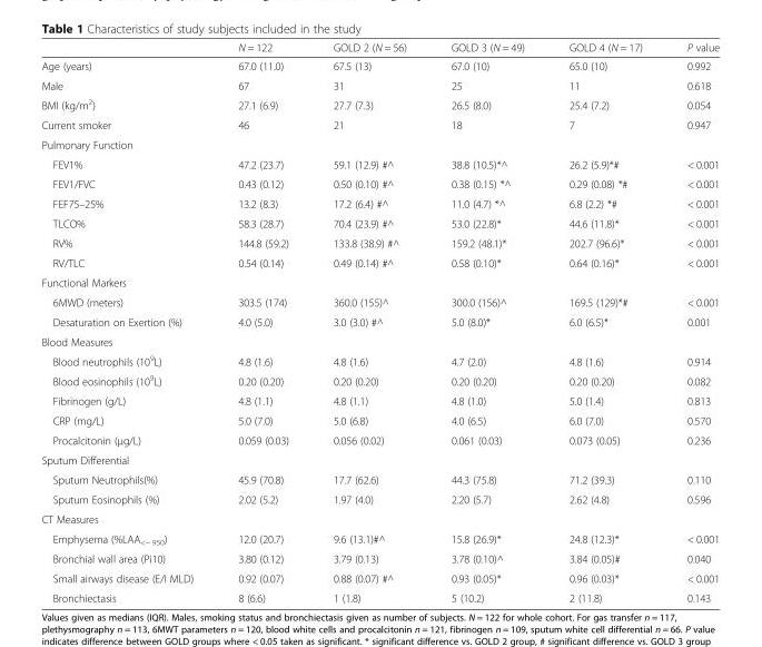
<table><thead><tr><td></td><td>N = 122</td><td>GOLD 2 (N = 56)</td><td>GOLD 3 (N = 49)</td><td>GOLD 4 (N = 17)</td><td>P value</td></tr></thead><tbody><tr><td>Age (years)</td><td>67.0 (11.0)</td><td>67.5 (13)</td><td>67.0 (10)</td><td>65.0 (10)</td><td>0.992</td></tr><tr><td>Male</td><td>67</td><td>31</td><td>25</td><td>11</td><td>0.618</td></tr><tr><td>BMI (kg/m<sup>2</sup>)</td><td>27.1 (6.9)</td><td>27.7 (7.3)</td><td>26.5 (8.0)</td><td>25.4 (7.2)</td><td>0.054</td></tr><tr><td>Current smoker</td><td>46</td><td>21</td><td>18</td><td>7</td><td>0.947</td></tr><tr><td colspan="6">Pulmonary Function</td></tr><tr><td>FEV1%</td><td>47.2 (23.7)</td><td>59.1 (12.9) #^</td><td>38.8 (10.5)*^</td><td>26.2 (5.9)*#</td><td>&lt; 0.001</td></tr><tr><td>FEV1/FVC</td><td>0.43 (0.12)</td><td>0.50 (0.10) #^</td><td>0.38 (0.15) *^</td><td>0.29 (0.08) *#</td><td>&lt; 0.001</td></tr><tr><td>FEF75–25%</td><td>13.2 (8.3)</td><td>17.2 (6.4) #^</td><td>11.0 (4.7) *^</td><td>6.8 (2.2) *#</td><td>&lt; 0.001</td></tr><tr><td>TLCO%</td><td>58.3 (28.7)</td><td>70.4 (23.9) #^</td><td>53.0 (22.8)*</td><td>44.6 (11.8)*</td><td>&lt; 0.001</td></tr><tr><td>RV%</td><td>144.8 (59.2)</td><td>133.8 (38.9) #^</td><td>159.2 (48.1)*</td><td>202.7 (96.6)*</td><td>&lt; 0.001</td></tr><tr><td>RV/TLC</td><td>0.54 (0.14)</td><td>0.49 (0.14) #^</td><td>0.58 (0.10)*</td><td>0.64 (0.16)*</td><td>&lt; 0.001</td></tr><tr><td colspan="6">Functional Markers</td></tr><tr><td>6MWD (meters)</td><td>303.5 (174)</td><td>360.0 (155)^</td><td>300.0 (156)^</td><td>169.5 (129)*#</td><td>&lt; 0.001</td></tr><tr><td>Desaturation on Exertion (%)</td><td>4.0 (5.0)</td><td>3.0 (3.0) #^</td><td>5.0 (8.0)*</td><td>6.0 (6.5)*</td><td>0.001</td></tr><tr><td colspan="6">Blood Measures</td></tr><tr><td>Blood neutrophils (10<sup>9</sup>L)</td><td>4.8 (1.6)</td><td>4.8 (1.6)</td><td>4.7 (2.0)</td><td>4.8 (1.6)</td><td>0.914</td></tr><tr><td>Blood eosinophils (10<sup>9</sup>L)</td><td>0.20 (0.20)</td><td>0.20 (0.20)</td><td>0.20 (0.20)</td><td>0.20 (0.20)</td><td>0.082</td></tr><tr><td>Fibrinogen (g/L)</td><td>4.8 (1.1)</td><td>4.8 (1.1)</td><td>4.8 (1.0)</td><td>5.0 (1.4)</td><td>0.813</td></tr><tr><td>CRP (mg/L)</td><td>5.0 (7.0)</td><td>5.0 (6.8)</td><td>4.0 (6.5)</td><td>6.0 (7.0)</td><td>0.570</td></tr><tr><td>Procalcitonin (μg/L)</td><td>0.059 (0.03)</td><td>0.056 (0.02)</td><td>0.061 (0.03)</td><td>0.073 (0.05)</td><td>0.236</td></tr><tr><td colspan="6">Sputum Differential</td></tr><tr><td>Sputum Neutrophils(%)</td><td>45.9 (70.8)</td><td>17.7 (62.6)</td><td>44.3 (75.8)</td><td>71.2 (39.3)</td><td>0.110</td></tr><tr><td>Sputum Eosinophils (%)</td><td>2.02 (5.2)</td><td>1.97 (4.0)</td><td>2.20 (5.7)</td><td>2.62 (4.8)</td><td>0.596</td></tr><tr><td colspan="6">CT Measures</td></tr><tr><td>Emphysema (%LAA<sub>&lt;− 950</sub>)</td><td>12.0 (20.7)</td><td>9.6 (13.1)#^</td><td>15.8 (26.9)*</td><td>24.8 (12.3)*</td><td>&lt; 0.001</td></tr><tr><td>Bronchial wall area (Pi10)</td><td>3.80 (0.12)</td><td>3.79 (0.13)</td><td>3.78 (0.10)^</td><td>3.84 (0.05)#</td><td>0.040</td></tr><tr><td>Small airways disease (E/I MLD)</td><td>0.92 (0.07)</td><td>0.88 (0.07) #^</td><td>0.93 (0.05)*</td><td>0.96 (0.03)*</td><td>&lt; 0.001</td></tr><tr><td>Bronchiectasis</td><td>8 (6.6)</td><td>1 (1.8)</td><td>5 (10.2)</td><td>2 (11.8)</td><td>0.143</td></tr></tbody></table>